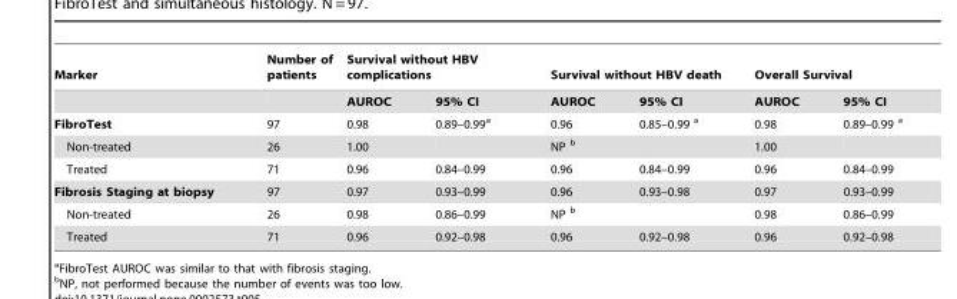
<table><thead><tr><td rowspan="2">Marker</td><td rowspan="2">Number of patients</td><td colspan="2">Survival without HBV complications</td><td colspan="2">Survival without HBV death</td><td colspan="2">Overall Survival</td></tr><tr><td>AUROC</td><td>95% CI</td><td>AUROC</td><td>95% CI</td><td>AUROC</td><td>95% CI</td></tr></thead><tbody><tr><td>FibroTest</td><td>97</td><td>0.98</td><td>0.89–0.99<sup>a</sup></td><td>0.96</td><td>0.85–0.99 a</td><td>0.98</td><td>0.89–0.99 a</td></tr><tr><td>Non-treated</td><td>26</td><td>1.00</td><td></td><td>NP b</td><td></td><td>1.00</td><td></td></tr><tr><td>Treated</td><td>71</td><td>0.96</td><td>0.84–0.99</td><td>0.96</td><td>0.84–0.99</td><td>0.96</td><td>0.84–0.99</td></tr><tr><td>Fibrosis Staging at biopsy</td><td>97</td><td>0.97</td><td>0.93–0.99</td><td>0.96</td><td>0.93–0.98</td><td>0.97</td><td>0.93–0.99</td></tr><tr><td>Non-treated</td><td>26</td><td>0.98</td><td>0.86–0.99</td><td>NP b</td><td></td><td>0.98</td><td>0.86–0.99</td></tr><tr><td>Treated</td><td>71</td><td>0.96</td><td>0.92–0.98</td><td>0.96</td><td>0.92–0.98</td><td>0.96</td><td>0.92–0.98</td></tr></tbody></table>